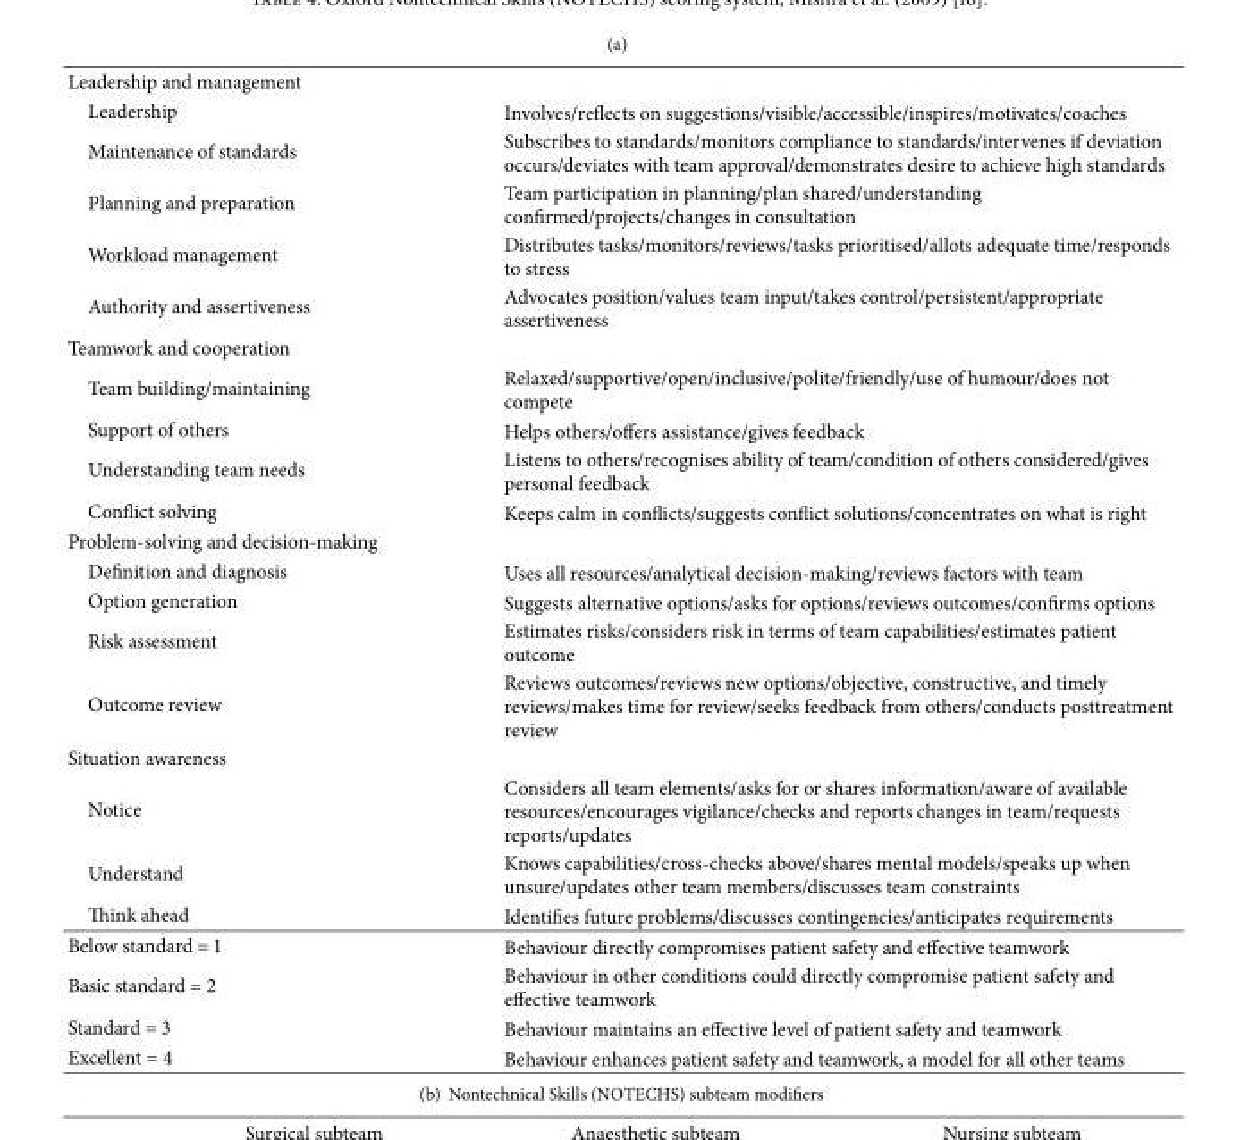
<table><tbody><tr><td colspan="2">Leadership and management</td></tr><tr><td>Leadership</td><td>Involves/reflects on suggestions/visible/accessible/inspires/motivates/coaches</td></tr><tr><td>Maintenance of standards</td><td>Subscribes to standards/monitors compliance to standards/intervenes if deviation occurs/deviates with team approval/demonstrates desire to achieve high standards</td></tr><tr><td>Planning and preparation</td><td>Team participation in planning/plan shared/understanding confirmed/projects/changes in consultation</td></tr><tr><td>Workload management</td><td>Distributes tasks/monitors/reviews/tasks prioritised/allots adequate time/responds to stress</td></tr><tr><td>Authority and assertiveness</td><td>Advocates position/values team input/takes control/persistent/appropriate assertiveness</td></tr><tr><td colspan="2">Teamwork and cooperation</td></tr><tr><td>Team building/maintaining</td><td>Relaxed/supportive/open/inclusive/polite/friendly/use of humour/does not compete</td></tr><tr><td>Support of others</td><td>Helps others/offers assistance/gives feedback</td></tr><tr><td>Understanding team needs</td><td>Listens to others/recognises ability of team/condition of others considered/gives personal feedback</td></tr><tr><td>Conflict solving</td><td>Keeps calm in conflicts/suggests conflict solutions/concentrates on what is right</td></tr><tr><td colspan="2">Problem-solving and decision-making</td></tr><tr><td>Definition and diagnosis</td><td>Uses all resources/analytical decision-making/reviews factors with team</td></tr><tr><td>Option generation</td><td>Suggests alternative options/asks for options/reviews outcomes/confirms options</td></tr><tr><td>Risk assessment</td><td>Estimates risks/considers risk in terms of team capabilities/estimates patient outcome</td></tr><tr><td>Outcome review</td><td>Reviews outcomes/reviews new options/objective, constructive, and timely reviews/makes time for review/seeks feedback from others/conducts posttreatment review</td></tr><tr><td colspan="2">Situation awareness</td></tr><tr><td>Notice</td><td>Considers all team elements/asks for or shares information/aware of available resources/encourages vigilance/checks and reports changes in team/requests reports/updates</td></tr><tr><td>Understand</td><td>Knows capabilities/cross-checks above/shares mental models/speaks up when unsure/updates other team members/discusses team constraints</td></tr><tr><td>Think ahead</td><td>Identifies future problems/discusses contingencies/anticipates requirements</td></tr><tr><td>Below standard = 1</td><td>Behaviour directly compromises patient safety and effective teamwork</td></tr><tr><td>Basic standard = 2</td><td>Behaviour in other conditions could directly compromise patient safety and effective teamwork</td></tr><tr><td>Standard = 3</td><td>Behaviour maintains an effective level of patient safety and teamwork</td></tr><tr><td>Excellent = 4</td><td>Behaviour enhances patient safety and teamwork, a model for all other teams</td></tr></tbody></table>